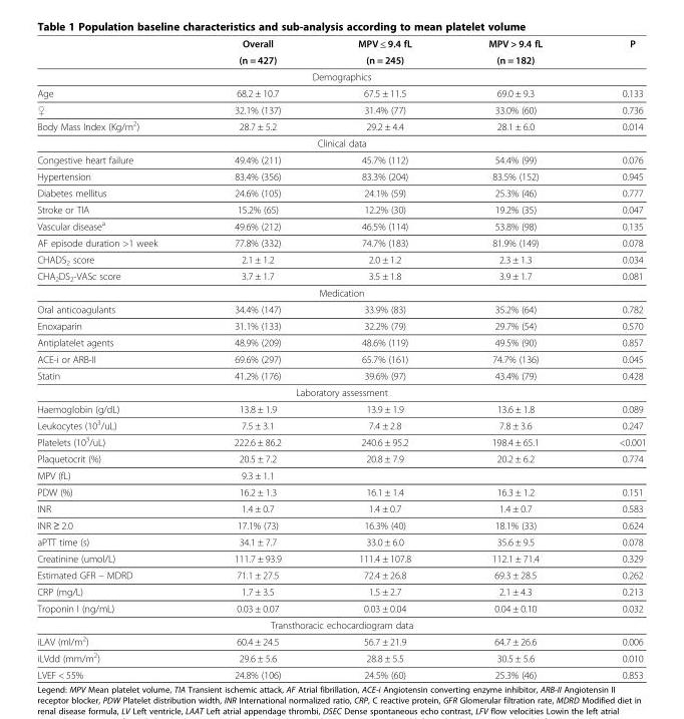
<table><thead><tr><td rowspan="2"></td><td rowspan="2">Overall (n = 427)</td><td rowspan="2">MPV ≤ 9.4 fL (n = 245)</td><td rowspan="2">MPV &gt; 9.4 fL (n = 182)</td><td rowspan="2">P</td></tr><tr></tr></thead><tbody><tr><td colspan="5">Demographics</td></tr><tr><td>Age</td><td>68.2 ± 10.7</td><td>67.5 ± 11.5</td><td>69.0 ± 9.3</td><td>0.133</td></tr><tr><td>♀</td><td>32.1% (137)</td><td>31.4% (77)</td><td>33.0% (60)</td><td>0.736</td></tr><tr><td>Body Mass Index (Kg/m<sup>2</sup>)</td><td>28.7 ± 5.2</td><td>29.2 ± 4.4</td><td>28.1 ± 6.0</td><td>0.014</td></tr><tr><td colspan="5">Clinical data</td></tr><tr><td>Congestive heart failure</td><td>49.4% (211)</td><td>45.7% (112)</td><td>54.4% (99)</td><td>0.076</td></tr><tr><td>Hypertension</td><td>83.4% (356)</td><td>83.3% (204)</td><td>83.5% (152)</td><td>0.945</td></tr><tr><td>Diabetes mellitus</td><td>24.6% (105)</td><td>24.1% (59)</td><td>25.3% (46)</td><td>0.777</td></tr><tr><td>Stroke or TIA</td><td>15.2% (65)</td><td>12.2% (30)</td><td>19.2% (35)</td><td>0.047</td></tr><tr><td>Vascular disease<sup>a</sup></td><td>49.6% (212)</td><td>46.5% (114)</td><td>53.8% (98)</td><td>0.135</td></tr><tr><td>AF episode duration &gt;1 week</td><td>77.8% (332)</td><td>74.7% (183)</td><td>81.9% (149)</td><td>0.078</td></tr><tr><td>CHADS<sub>2</sub> score</td><td>2.1 ± 1.2</td><td>2.0 ± 1.2</td><td>2.3 ± 1.3</td><td>0.034</td></tr><tr><td>CHA<sub>2</sub>DS<sub>2</sub>-VASc score</td><td>3.7 ± 1.7</td><td>3.5 ± 1.8</td><td>3.9 ± 1.7</td><td>0.081</td></tr><tr><td colspan="5">Medication</td></tr><tr><td>Oral anticoagulants</td><td>34.4% (147)</td><td>33.9% (83)</td><td>35.2% (64)</td><td>0.782</td></tr><tr><td>Enoxaparin</td><td>31.1% (133)</td><td>32.2% (79)</td><td>29.7% (54)</td><td>0.570</td></tr><tr><td>Antiplatelet agents</td><td>48.9% (209)</td><td>48.6% (119)</td><td>49.5% (90)</td><td>0.857</td></tr><tr><td>ACE-i or ARB-II</td><td>69.6% (297)</td><td>65.7% (161)</td><td>74.7% (136)</td><td>0.045</td></tr><tr><td>Statin</td><td>41.2% (176)</td><td>39.6% (97)</td><td>43.4% (79)</td><td>0.428</td></tr><tr><td colspan="5">Laboratory assessment</td></tr><tr><td>Haemoglobin (g/dL)</td><td>13.8 ± 1.9</td><td>13.9 ± 1.9</td><td>13.6 ± 1.8</td><td>0.089</td></tr><tr><td>Leukocytes (10<sup>3</sup>/uL)</td><td>7.5 ± 3.1</td><td>7.4 ± 2.8</td><td>7.8 ± 3.6</td><td>0.247</td></tr><tr><td>Platelets (10<sup>3</sup>/uL)</td><td>222.6 ± 86.2</td><td>240.6 ± 95.2</td><td>198.4 ± 65.1</td><td>&lt;0.001</td></tr><tr><td>Plaquetocrit (%)</td><td>20.5 ± 7.2</td><td>20.8 ± 7.9</td><td>20.2 ± 6.2</td><td>0.774</td></tr><tr><td>MPV (fL)</td><td>9.3 ± 1.1</td><td></td><td></td><td></td></tr><tr><td>PDW (%)</td><td>16.2 ± 1.3</td><td>16.1 ± 1.4</td><td>16.3 ± 1.2</td><td>0.151</td></tr><tr><td>INR</td><td>1.4 ± 0.7</td><td>1.4 ± 0.7</td><td>1.4 ± 0.7</td><td>0.583</td></tr><tr><td>INR ≥ 2.0</td><td>17.1% (73)</td><td>16.3% (40)</td><td>18.1% (33)</td><td>0.624</td></tr><tr><td>aPTT time (s)</td><td>34.1 ± 7.7</td><td>33.0 ± 6.0</td><td>35.6 ± 9.5</td><td>0.078</td></tr><tr><td>Creatinine (umol/L)</td><td>111.7 ± 93.9</td><td>111.4 ± 107.8</td><td>112.1 ± 71.4</td><td>0.329</td></tr><tr><td>Estimated GFR – MDRD</td><td>71.1 ± 27.5</td><td>72.4 ± 26.8</td><td>69.3 ± 28.5</td><td>0.262</td></tr><tr><td>CRP (mg/L)</td><td>1.7 ± 3.5</td><td>1.5 ± 2.7</td><td>2.1 ± 4.3</td><td>0.213</td></tr><tr><td>Troponin I (ng/mL)</td><td>0.03 ± 0.07</td><td>0.03 ± 0.04</td><td>0.04 ± 0.10</td><td>0.032</td></tr><tr><td colspan="5">Transthoracic echocardiogram data</td></tr><tr><td>iLAV (ml/m<sup>2</sup>)</td><td>60.4 ± 24.5</td><td>56.7 ± 21.9</td><td>64.7 ± 26.6</td><td>0.006</td></tr><tr><td>iLVdd (mm/m<sup>2</sup>)</td><td>29.6 ± 5.6</td><td>28.8 ± 5.5</td><td>30.5 ± 5.6</td><td>0.010</td></tr><tr><td>LVEF &lt; 55%</td><td>24.8% (106)</td><td>24.5% (60)</td><td>25.3% (46)</td><td>0.853</td></tr></tbody></table>